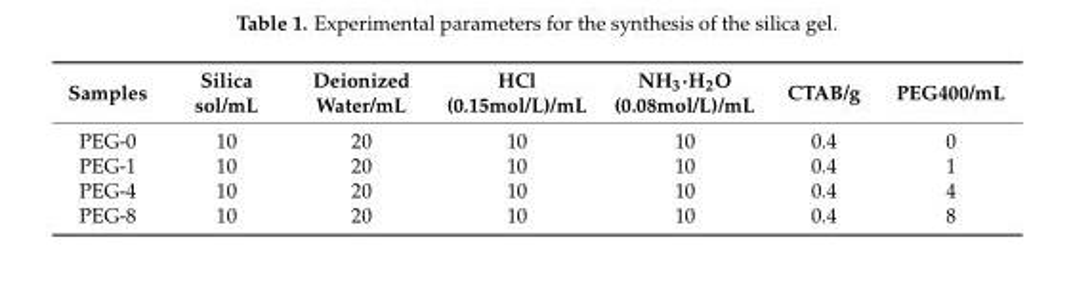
<table><thead><tr><td>Samples</td><td>Silica sol/mL</td><td>Deionized Water/mL</td><td>HCl (0.15mol/L)/mL</td><td>NH<sub>3</sub>·H<sub>2</sub>O (0.08mol/L)/mL</td><td>CTAB/g</td><td>PEG400/mL</td></tr></thead><tbody><tr><td>PEG-0</td><td>10</td><td>20</td><td>10</td><td>10</td><td>0.4</td><td>0</td></tr><tr><td>PEG-1</td><td>10</td><td>20</td><td>10</td><td>10</td><td>0.4</td><td>1</td></tr><tr><td>PEG-4</td><td>10</td><td>20</td><td>10</td><td>10</td><td>0.4</td><td>4</td></tr><tr><td>PEG-8</td><td>10</td><td>20</td><td>10</td><td>10</td><td>0.4</td><td>8</td></tr></tbody></table>